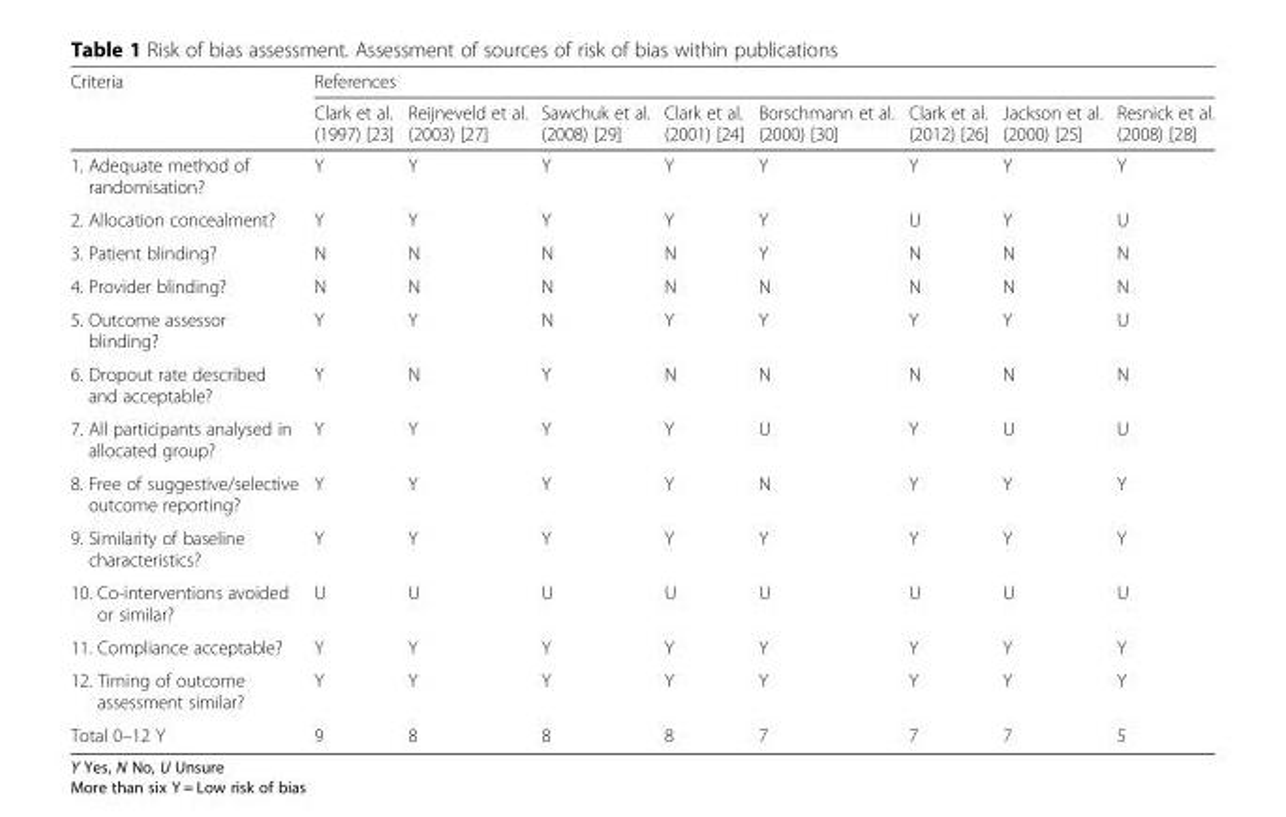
<table><thead><tr><td rowspan="2">Criteria</td><td colspan="8">References</td></tr><tr><td>Clark et al. (1997) [23]</td><td>Reijneveld et al. (2003) [27]</td><td>Sawchuk et al. (2008) [29]</td><td>Clark et al. (2001) [24]</td><td>Borschmann et al. (2000) [30]</td><td>Clark et al. (2012) [26]</td><td>Jackson et al. (2000) [25]</td><td>Resnick et al. (2008) [28]</td></tr></thead><tbody><tr><td>1. Adequate method of randomisation?</td><td>Y</td><td>Y</td><td>Y</td><td>Y</td><td>Y</td><td>Y</td><td>Y</td><td>Y</td></tr><tr><td>2. Allocation concealment?</td><td>Y</td><td>Y</td><td>Y</td><td>Y</td><td>Y</td><td>U</td><td>Y</td><td>U</td></tr><tr><td>3. Patient blinding?</td><td>N</td><td>N</td><td>N</td><td>N</td><td>Y</td><td>N</td><td>N</td><td>N</td></tr><tr><td>4. Provider blinding?</td><td>N</td><td>N</td><td>N</td><td>N</td><td>N</td><td>N</td><td>N</td><td>N</td></tr><tr><td>5. Outcome assessor blinding?</td><td>Y</td><td>Y</td><td>N</td><td>Y</td><td>Y</td><td>Y</td><td>Y</td><td>U</td></tr><tr><td>6. Dropout rate described and acceptable?</td><td>Y</td><td>N</td><td>Y</td><td>N</td><td>N</td><td>N</td><td>N</td><td>N</td></tr><tr><td>7. All participants analysed in allocated group?</td><td>Y</td><td>Y</td><td>Y</td><td>Y</td><td>U</td><td>Y</td><td>U</td><td>U</td></tr><tr><td>8. Free of suggestive/selective outcome reporting?</td><td>Y</td><td>Y</td><td>Y</td><td>Y</td><td>N</td><td>Y</td><td>Y</td><td>Y</td></tr><tr><td>9. Similarity of baseline characteristics?</td><td>Y</td><td>Y</td><td>Y</td><td>Y</td><td>Y</td><td>Y</td><td>Y</td><td>Y</td></tr><tr><td>10. Co-interventions avoided or similar?</td><td>U</td><td>U</td><td>U</td><td>U</td><td>U</td><td>U</td><td>U</td><td>U</td></tr><tr><td>11. Compliance acceptable?</td><td>Y</td><td>Y</td><td>Y</td><td>Y</td><td>Y</td><td>Y</td><td>Y</td><td>Y</td></tr><tr><td>12. Timing of outcome assessment similar?</td><td>Y</td><td>Y</td><td>Y</td><td>Y</td><td>Y</td><td>Y</td><td>Y</td><td>Y</td></tr><tr><td>Total 0–12 Y</td><td>9</td><td>8</td><td>8</td><td>8</td><td>7</td><td>7</td><td>7</td><td>5</td></tr></tbody></table>